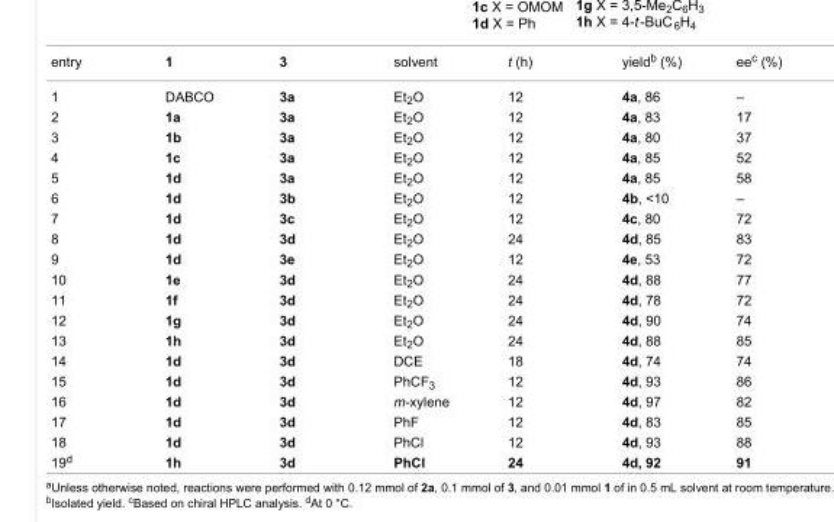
<table><tbody><tr><td>entry</td><td>1</td><td>3</td><td>solvent</td><td>t (h)</td><td>yield<sup>b</sup> (%)</td><td>ee<sup>c</sup> (%)</td></tr><tr><td>1</td><td>DABCO</td><td>3a</td><td>Et<sub>2</sub>O</td><td>12</td><td>4a, 86</td><td>–</td></tr><tr><td>2</td><td>1a</td><td>3a</td><td>Et<sub>2</sub>O</td><td>12</td><td>4a, 83</td><td>17</td></tr><tr><td>3</td><td>1b</td><td>3a</td><td>Et<sub>2</sub>O</td><td>12</td><td>4a, 80</td><td>37</td></tr><tr><td>4</td><td>1c</td><td>3a</td><td>Et<sub>2</sub>O</td><td>12</td><td>4a, 85</td><td>52</td></tr><tr><td>5</td><td>1d</td><td>3a</td><td>Et<sub>2</sub>O</td><td>12</td><td>4a, 85</td><td>58</td></tr><tr><td>6</td><td>1d</td><td>3b</td><td>Et<sub>2</sub>O</td><td>12</td><td>4b, &lt;10</td><td>–</td></tr><tr><td>7</td><td>1d</td><td>3c</td><td>Et<sub>2</sub>O</td><td>12</td><td>4c, 80</td><td>72</td></tr><tr><td>8</td><td>1d</td><td>3d</td><td>Et<sub>2</sub>O</td><td>24</td><td>4d, 85</td><td>83</td></tr><tr><td>9</td><td>1d</td><td>3e</td><td>Et<sub>2</sub>O</td><td>12</td><td>4e, 53</td><td>72</td></tr><tr><td>10</td><td>1e</td><td>3d</td><td>Et<sub>2</sub>O</td><td>24</td><td>4d, 88</td><td>77</td></tr><tr><td>11</td><td>1f</td><td>3d</td><td>Et<sub>2</sub>O</td><td>24</td><td>4d, 78</td><td>72</td></tr><tr><td>12</td><td>1g</td><td>3d</td><td>Et<sub>2</sub>O</td><td>24</td><td>4d, 90</td><td>74</td></tr><tr><td>13</td><td>1h</td><td>3d</td><td>Et<sub>2</sub>O</td><td>24</td><td>4d, 88</td><td>85</td></tr><tr><td>14</td><td>1d</td><td>3d</td><td>DCE</td><td>18</td><td>4d, 74</td><td>74</td></tr><tr><td>15</td><td>1d</td><td>3d</td><td>PhCF<sub>3</sub></td><td>12</td><td>4d, 93</td><td>86</td></tr><tr><td>16</td><td>1d</td><td>3d</td><td>m-xylene</td><td>12</td><td>4d, 97</td><td>82</td></tr><tr><td>17</td><td>1d</td><td>3d</td><td>PhF</td><td>12</td><td>4d, 83</td><td>85</td></tr><tr><td>18</td><td>1d</td><td>3d</td><td>PhCl</td><td>12</td><td>4d, 93</td><td>88</td></tr><tr><td>19<sup>d</sup></td><td>1h</td><td>3d</td><td>PhCl</td><td>24</td><td>4d, 92</td><td>91</td></tr></tbody></table>